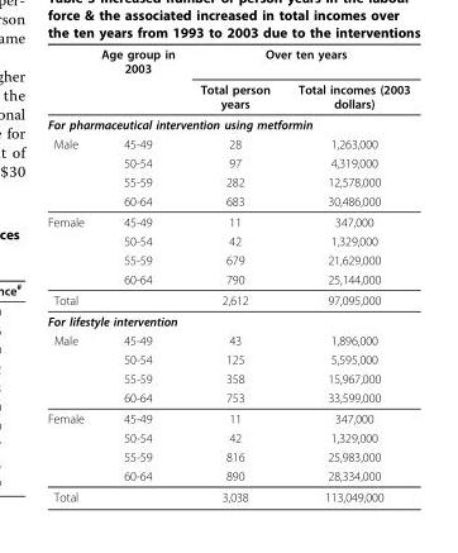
<table><thead><tr><td rowspan="2"></td><td rowspan="2">Age group in 2003</td><td colspan="2">Over ten years</td></tr><tr><td>Total person years</td><td>Total incomes (2003 dollars)</td></tr></thead><tbody><tr><td colspan="4">For pharmaceutical intervention using metformin</td></tr><tr><td rowspan="4">Male</td><td>45-49</td><td>28</td><td>1,263,000</td></tr><tr><td>50-54</td><td>97</td><td>4,319,000</td></tr><tr><td>55-59</td><td>282</td><td>12,578,000</td></tr><tr><td>60-64</td><td>683</td><td>30,486,000</td></tr><tr><td rowspan="4">Female</td><td>45-49</td><td>11</td><td>347,000</td></tr><tr><td>50-54</td><td>42</td><td>1,329,000</td></tr><tr><td>55-59</td><td>679</td><td>21,629,000</td></tr><tr><td>60-64</td><td>790</td><td>25,144,000</td></tr><tr><td>Total</td><td></td><td>2,612</td><td>97,095,000</td></tr><tr><td colspan="4">For lifestyle intervention</td></tr><tr><td rowspan="4">Male</td><td>45-49</td><td>43</td><td>1,896,000</td></tr><tr><td>50-54</td><td>125</td><td>5,595,000</td></tr><tr><td>55-59</td><td>358</td><td>15,967,000</td></tr><tr><td>60-64</td><td>753</td><td>33,599,000</td></tr><tr><td rowspan="4">Female</td><td>45-49</td><td>11</td><td>347,000</td></tr><tr><td>50-54</td><td>42</td><td>1,329,000</td></tr><tr><td>55-59</td><td>816</td><td>25,983,000</td></tr><tr><td>60-64</td><td>890</td><td>28,334,000</td></tr><tr><td>Total</td><td></td><td>3,038</td><td>113,049,000</td></tr></tbody></table>